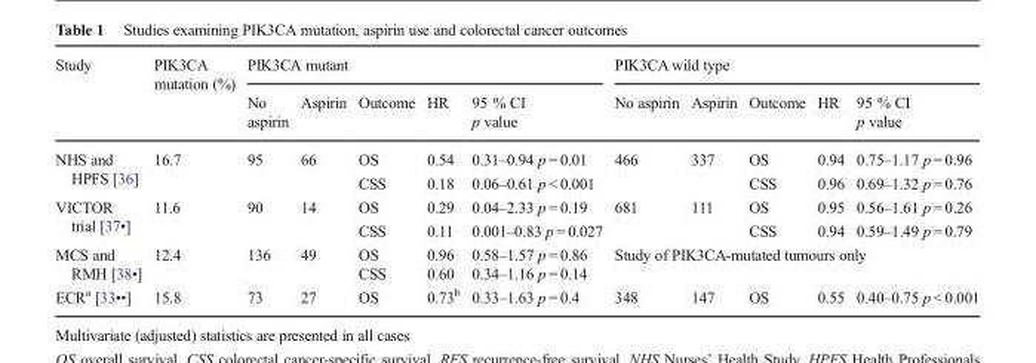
<table><thead><tr><td rowspan="2">Study</td><td rowspan="2">PIK3CA mutation (%)</td><td colspan="5">PIK3CA mutant</td><td colspan="5">PIK3CA wild type</td></tr><tr><td>No aspirin</td><td>Aspirin</td><td>Outcome</td><td>HR</td><td>95 % CI p value</td><td>No aspirin</td><td>Aspirin</td><td>Outcome</td><td>HR</td><td>95 % CI p value</td></tr></thead><tbody><tr><td rowspan="2">NHS and HPFS [36]</td><td rowspan="2">16.7</td><td rowspan="2">95</td><td rowspan="2">66</td><td>OS</td><td>0.54</td><td>0.31–0.94 p = 0.01</td><td rowspan="2">466</td><td rowspan="2">337</td><td>OS</td><td>0.94</td><td>0.75–1.17 p = 0.96</td></tr><tr><td>CSS</td><td>0.18</td><td>0.06–0.61 p &lt; 0.001</td><td>CSS</td><td>0.96</td><td>0.69–1.32 p = 0.76</td></tr><tr><td rowspan="2">VICTOR trial [37•]</td><td rowspan="2">11.6</td><td rowspan="2">90</td><td rowspan="2">14</td><td>OS</td><td>0.29</td><td>0.04–2.33 p = 0.19</td><td rowspan="2">681</td><td rowspan="2">111</td><td>OS</td><td>0.95</td><td>0.56–1.61 p = 0.26</td></tr><tr><td>CSS</td><td>0.11</td><td>0.001–0.83 p = 0.027</td><td>CSS</td><td>0.94</td><td>0.59–1.49 p = 0.79</td></tr><tr><td rowspan="2">MCS and RMH [38•]</td><td rowspan="2">12.4</td><td rowspan="2">136</td><td rowspan="2">49</td><td>OS</td><td>0.96</td><td>0.58–1.57 p = 0.86</td><td rowspan="2" colspan="5">Study of PIK3CA-mutated tumours only</td></tr><tr><td>CSS</td><td>0.60</td><td>0.34–1.16 p = 0.14</td></tr><tr><td>ECR<sup>a</sup> [33••]</td><td>15.8</td><td>73</td><td>27</td><td>OS</td><td>0.73<sup>b</sup></td><td>0.33–1.63 p = 0.4</td><td>348</td><td>147</td><td>OS</td><td>0.55</td><td>0.40–0.75 p &lt; 0.001</td></tr></tbody></table>